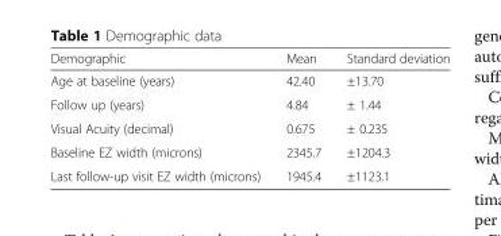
<table><thead><tr><td>Demographic</td><td>Mean</td><td>Standard deviation</td></tr></thead><tbody><tr><td>Age at baseline (years)</td><td>42.40</td><td>±13.70</td></tr><tr><td>Follow up (years)</td><td>4.84</td><td>± 1.44</td></tr><tr><td>Visual Acuity (decimal)</td><td>0.675</td><td>± 0.235</td></tr><tr><td>Baseline EZ width (microns)</td><td>2345.7</td><td>±1204.3</td></tr><tr><td>Last follow-up visit EZ width (microns)</td><td>1945.4</td><td>±1123.1</td></tr></tbody></table>